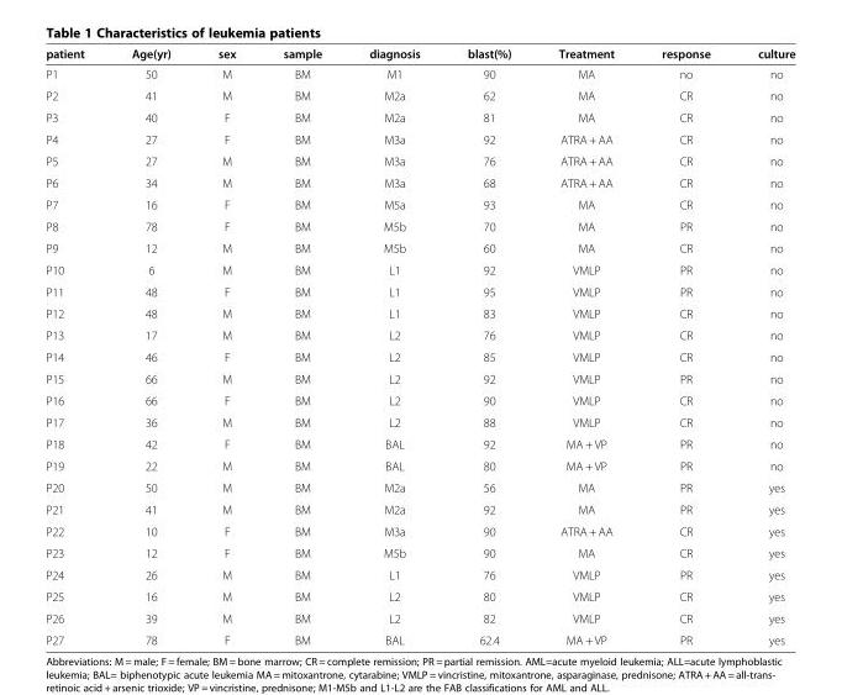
<table><thead><tr><td>patient</td><td>Age(yr)</td><td>sex</td><td>sample</td><td>diagnosis</td><td>blast(%)</td><td>Treatment</td><td>response</td><td>culture</td></tr></thead><tbody><tr><td>P1</td><td>50</td><td>M</td><td>BM</td><td>M1</td><td>90</td><td>MA</td><td>no</td><td>no</td></tr><tr><td>P2</td><td>41</td><td>M</td><td>BM</td><td>M2a</td><td>62</td><td>MA</td><td>CR</td><td>no</td></tr><tr><td>P3</td><td>40</td><td>F</td><td>BM</td><td>M2a</td><td>81</td><td>MA</td><td>CR</td><td>no</td></tr><tr><td>P4</td><td>27</td><td>F</td><td>BM</td><td>M3a</td><td>92</td><td>ATRA + AA</td><td>CR</td><td>no</td></tr><tr><td>P5</td><td>27</td><td>M</td><td>BM</td><td>M3a</td><td>76</td><td>ATRA + AA</td><td>CR</td><td>no</td></tr><tr><td>P6</td><td>34</td><td>M</td><td>BM</td><td>M3a</td><td>68</td><td>ATRA + AA</td><td>CR</td><td>no</td></tr><tr><td>P7</td><td>16</td><td>F</td><td>BM</td><td>M5a</td><td>93</td><td>MA</td><td>CR</td><td>no</td></tr><tr><td>P8</td><td>78</td><td>F</td><td>BM</td><td>M5b</td><td>70</td><td>MA</td><td>PR</td><td>no</td></tr><tr><td>P9</td><td>12</td><td>M</td><td>BM</td><td>M5b</td><td>60</td><td>MA</td><td>CR</td><td>no</td></tr><tr><td>P10</td><td>6</td><td>M</td><td>BM</td><td>L1</td><td>92</td><td>VMLP</td><td>PR</td><td>no</td></tr><tr><td>P11</td><td>48</td><td>F</td><td>BM</td><td>L1</td><td>95</td><td>VMLP</td><td>PR</td><td>no</td></tr><tr><td>P12</td><td>48</td><td>M</td><td>BM</td><td>L1</td><td>83</td><td>VMLP</td><td>CR</td><td>no</td></tr><tr><td>P13</td><td>17</td><td>M</td><td>BM</td><td>L2</td><td>76</td><td>VMLP</td><td>CR</td><td>no</td></tr><tr><td>P14</td><td>46</td><td>F</td><td>BM</td><td>L2</td><td>85</td><td>VMLP</td><td>CR</td><td>no</td></tr><tr><td>P15</td><td>66</td><td>M</td><td>BM</td><td>L2</td><td>92</td><td>VMLP</td><td>PR</td><td>no</td></tr><tr><td>P16</td><td>66</td><td>F</td><td>BM</td><td>L2</td><td>90</td><td>VMLP</td><td>CR</td><td>no</td></tr><tr><td>P17</td><td>36</td><td>M</td><td>BM</td><td>L2</td><td>88</td><td>VMLP</td><td>CR</td><td>no</td></tr><tr><td>P18</td><td>42</td><td>F</td><td>BM</td><td>BAL</td><td>92</td><td>MA + VP</td><td>PR</td><td>no</td></tr><tr><td>P19</td><td>22</td><td>M</td><td>BM</td><td>BAL</td><td>80</td><td>MA + VP</td><td>PR</td><td>no</td></tr><tr><td>P20</td><td>50</td><td>M</td><td>BM</td><td>M2a</td><td>56</td><td>MA</td><td>PR</td><td>yes</td></tr><tr><td>P21</td><td>41</td><td>M</td><td>BM</td><td>M2a</td><td>92</td><td>MA</td><td>PR</td><td>yes</td></tr><tr><td>P22</td><td>10</td><td>F</td><td>BM</td><td>M3a</td><td>90</td><td>ATRA + AA</td><td>CR</td><td>yes</td></tr><tr><td>P23</td><td>12</td><td>F</td><td>BM</td><td>M5b</td><td>90</td><td>MA</td><td>CR</td><td>yes</td></tr><tr><td>P24</td><td>26</td><td>M</td><td>BM</td><td>L1</td><td>76</td><td>VMLP</td><td>PR</td><td>yes</td></tr><tr><td>P25</td><td>16</td><td>M</td><td>BM</td><td>L2</td><td>80</td><td>VMLP</td><td>CR</td><td>yes</td></tr><tr><td>P26</td><td>39</td><td>M</td><td>BM</td><td>L2</td><td>82</td><td>VMLP</td><td>CR</td><td>yes</td></tr><tr><td>P27</td><td>78</td><td>F</td><td>BM</td><td>BAL</td><td>62.4</td><td>MA + VP</td><td>PR</td><td>yes</td></tr></tbody></table>